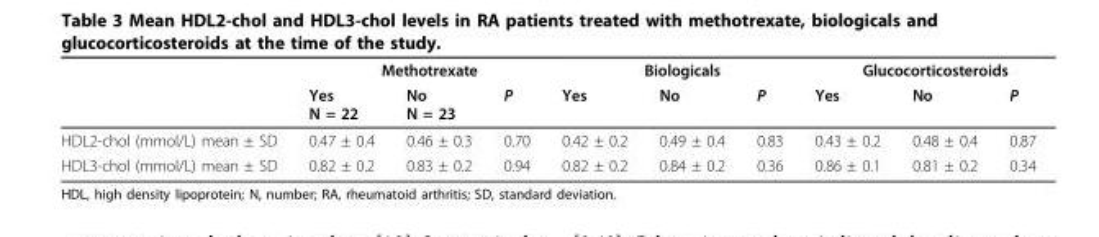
<table><thead><tr><td rowspan="2"></td><td colspan="3">Methotrexate</td><td colspan="3">Biologicals</td><td colspan="3">Glucocorticosteroids</td></tr><tr><td>Yes N = 22</td><td>No N = 23</td><td>P</td><td>Yes</td><td>No</td><td>P</td><td>Yes</td><td>No</td><td>P</td></tr></thead><tbody><tr><td>HDL2-chol (mmol/L) mean ± SD</td><td>0.47 ± 0.4</td><td>0.46 ± 0.3</td><td>0.70</td><td>0.42 ± 0.2</td><td>0.49 ± 0.4</td><td>0.83</td><td>0.43 ± 0.2</td><td>0.48 ± 0.4</td><td>0.87</td></tr><tr><td>HDL3-chol (mmol/L) mean ± SD</td><td>0.82 ± 0.2</td><td>0.83 ± 0.2</td><td>0.94</td><td>0.82 ± 0.2</td><td>0.84 ± 0.2</td><td>0.36</td><td>0.86 ± 0.1</td><td>0.81 ± 0.2</td><td>0.34</td></tr></tbody></table>